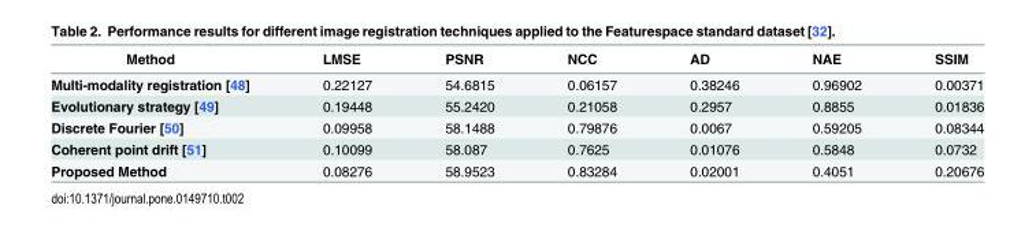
<table><thead><tr><td>Method</td><td>LMSE</td><td>PSNR</td><td>NCC</td><td>AD</td><td>NAE</td><td>SSIM</td></tr></thead><tbody><tr><td>Multi-modality registration [48]</td><td>0.22127</td><td>54.6815</td><td>0.06157</td><td>0.38246</td><td>0.96902</td><td>0.00371</td></tr><tr><td>Evolutionary strategy [49]</td><td>0.19448</td><td>55.2420</td><td>0.21058</td><td>0.2957</td><td>0.8855</td><td>0.01836</td></tr><tr><td>Discrete Fourier [50]</td><td>0.09958</td><td>58.1488</td><td>0.79876</td><td>0.0067</td><td>0.59205</td><td>0.08344</td></tr><tr><td>Coherent point drift [51]</td><td>0.10099</td><td>58.087</td><td>0.7625</td><td>0.01076</td><td>0.5848</td><td>0.0732</td></tr><tr><td>Proposed Method</td><td>0.08276</td><td>58.9523</td><td>0.83284</td><td>0.02001</td><td>0.4051</td><td>0.20676</td></tr></tbody></table>